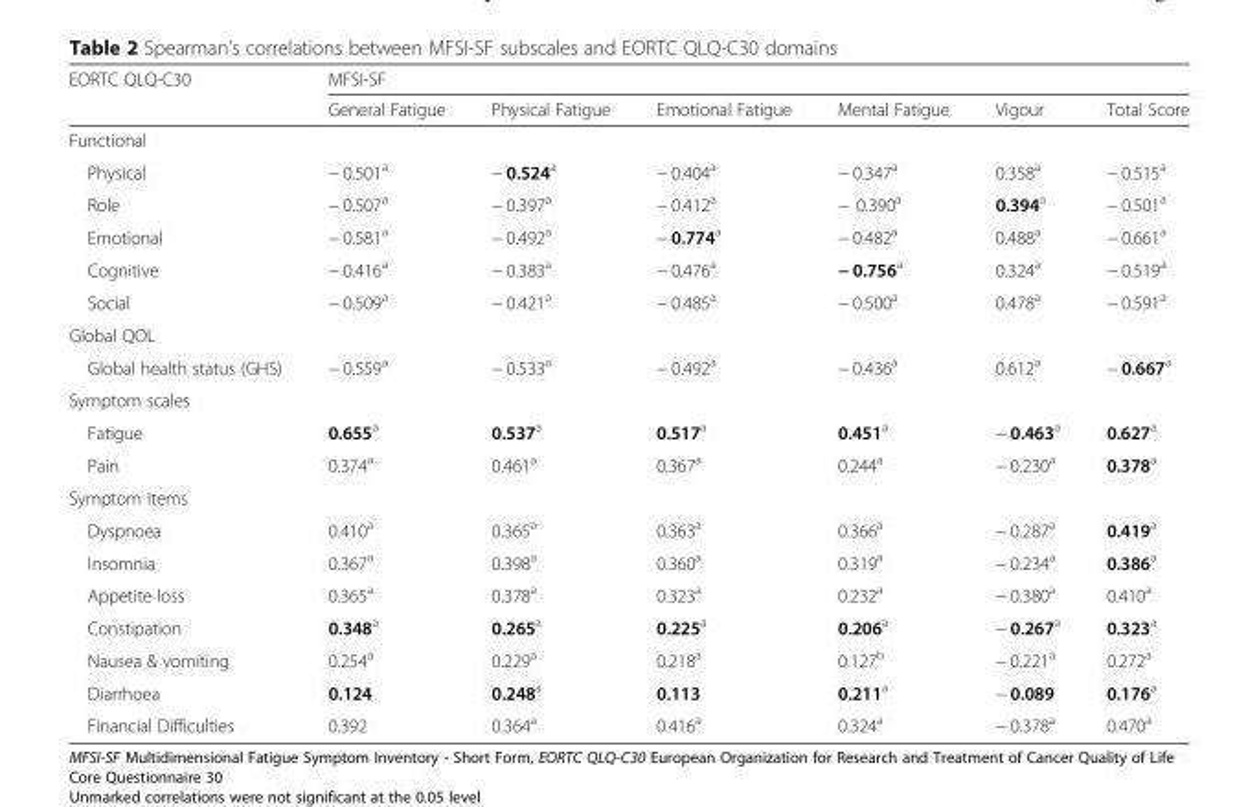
<table><thead><tr><td rowspan="2">EORTC QLQ-C30</td><td colspan="6">MFSI-SF</td></tr><tr><td>General Fatigue</td><td>Physical Fatigue</td><td>Emotional Fatigue</td><td>Mental Fatigue</td><td>Vigour</td><td>Total Score</td></tr></thead><tbody><tr><td colspan="7">Functional</td></tr><tr><td>Physical</td><td>− 0.501<sup>a</sup></td><td>− 0.524<sup>a</sup></td><td>− 0.404<sup>a</sup></td><td>− 0.347<sup>a</sup></td><td>0.358<sup>a</sup></td><td>− 0.515<sup>a</sup></td></tr><tr><td>Role</td><td>− 0.507<sup>a</sup></td><td>− 0.397<sup>a</sup></td><td>− 0.412<sup>a</sup></td><td>− 0.390<sup>a</sup></td><td>0.394<sup>a</sup></td><td>− 0.501<sup>a</sup></td></tr><tr><td>Emotional</td><td>− 0.581<sup>a</sup></td><td>− 0.492<sup>a</sup></td><td>− 0.774<sup>a</sup></td><td>− 0.482<sup>a</sup></td><td>0.488<sup>a</sup></td><td>− 0.661<sup>a</sup></td></tr><tr><td>Cognitive</td><td>− 0.416<sup>a</sup></td><td>− 0.383<sup>a</sup></td><td>− 0.476<sup>a</sup></td><td>− 0.756<sup>a</sup></td><td>0.324<sup>a</sup></td><td>− 0.519<sup>a</sup></td></tr><tr><td>Social</td><td>− 0.509<sup>a</sup></td><td>− 0.421<sup>a</sup></td><td>− 0.485<sup>a</sup></td><td>− 0.500<sup>a</sup></td><td>0.478<sup>a</sup></td><td>− 0.591<sup>a</sup></td></tr><tr><td colspan="7">Global QOL</td></tr><tr><td>Global health status (GHS)</td><td>− 0.559<sup>a</sup></td><td>− 0.533<sup>a</sup></td><td>− 0.492<sup>a</sup></td><td>− 0.436<sup>a</sup></td><td>0.612<sup>a</sup></td><td>− 0.667<sup>a</sup></td></tr><tr><td colspan="7">Symptom scales</td></tr><tr><td>Fatigue</td><td>0.655<sup>a</sup></td><td>0.537<sup>a</sup></td><td>0.517<sup>a</sup></td><td>0.451<sup>a</sup></td><td>− 0.463<sup>a</sup></td><td>0.627<sup>a</sup></td></tr><tr><td>Pain</td><td>0.374<sup>a</sup></td><td>0.461<sup>a</sup></td><td>0.367<sup>a</sup></td><td>0.244<sup>a</sup></td><td>− 0.230<sup>a</sup></td><td>0.378<sup>a</sup></td></tr><tr><td colspan="7">Symptom Items</td></tr><tr><td>Dyspnoea</td><td>0.410<sup>a</sup></td><td>0.365<sup>a</sup></td><td>0.363<sup>a</sup></td><td>0.366<sup>a</sup></td><td>− 0.287<sup>a</sup></td><td>0.419<sup>a</sup></td></tr><tr><td>Insomnia</td><td>0.367<sup>a</sup></td><td>0.398<sup>a</sup></td><td>0.360<sup>a</sup></td><td>0.319<sup>a</sup></td><td>− 0.234<sup>a</sup></td><td>0.386<sup>a</sup></td></tr><tr><td>Appetite loss</td><td>0.365<sup>a</sup></td><td>0.378<sup>a</sup></td><td>0.323<sup>a</sup></td><td>0.232<sup>a</sup></td><td>− 0.380<sup>a</sup></td><td>0.410<sup>a</sup></td></tr><tr><td>Constipation</td><td>0.348<sup>a</sup></td><td>0.265<sup>a</sup></td><td>0.225<sup>a</sup></td><td>0.206<sup>a</sup></td><td>− 0.267<sup>a</sup></td><td>0.323<sup>a</sup></td></tr><tr><td>Nausea &amp; vomiting</td><td>0.254<sup>a</sup></td><td>0.229<sup>a</sup></td><td>0.218<sup>a</sup></td><td>0.127<sup>b</sup></td><td>− 0.221<sup>a</sup></td><td>0.272<sup>a</sup></td></tr><tr><td>Diarrhoea</td><td>0.124</td><td>0.248<sup>a</sup></td><td>0.113</td><td>0.211<sup>a</sup></td><td>− 0.089</td><td>0.176<sup>a</sup></td></tr><tr><td>Financial Difficulties</td><td>0.392</td><td>0.364<sup>a</sup></td><td>0.416<sup>a</sup></td><td>0.324<sup>a</sup></td><td>− 0.378<sup>a</sup></td><td>0.470<sup>a</sup></td></tr></tbody></table>